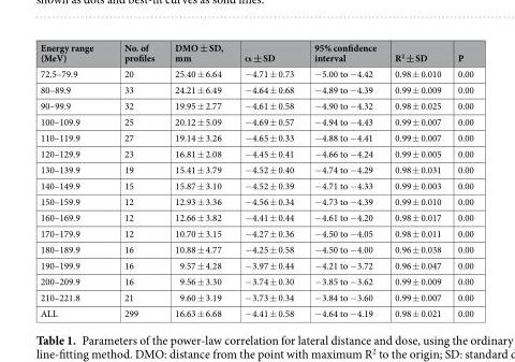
<table><thead><tr><td>Energy range (MeV)</td><td>No. of profiles</td><td>DMO ± SD, mm</td><td>α ± SD</td><td>95% confidence interval</td><td>R<sup>2</sup> ± SD</td><td>P</td></tr></thead><tbody><tr><td>72.5–79.9</td><td>20</td><td>25.40 ± 6.64</td><td>−4.71 ± 0.73</td><td>−5.00 to −4.42</td><td>0.98 ± 0.010</td><td>0.00</td></tr><tr><td>80–89.9</td><td>33</td><td>24.21 ± 6.49</td><td>−4.64 ± 0.68</td><td>−4.89 to −4.39</td><td>0.99 ± 0.009</td><td>0.00</td></tr><tr><td>90–99.9</td><td>32</td><td>19.95 ± 2.77</td><td>−4.61 ± 0.58</td><td>−4.90 to −4.32</td><td>0.98 ± 0.025</td><td>0.00</td></tr><tr><td>100–109.9</td><td>25</td><td>20.12 ± 5.09</td><td>−4.69 ± 0.57</td><td>−4.94 to −4.43</td><td>0.99 ± 0.007</td><td>0.00</td></tr><tr><td>110–119.9</td><td>27</td><td>19.14 ± 3.26</td><td>−4.65 ± 0.33</td><td>−4.88 to −4.41</td><td>0.99 ± 0.007</td><td>0.00</td></tr><tr><td>120–129.9</td><td>23</td><td>16.81 ± 2.08</td><td>−4.45 ± 0.41</td><td>−4.66 to −4.24</td><td>0.99 ± 0.005</td><td>0.00</td></tr><tr><td>130–139.9</td><td>19</td><td>15.41 ± 3.79</td><td>−4.52 ± 0.40</td><td>−4.74 to −4.29</td><td>0.98 ± 0.031</td><td>0.00</td></tr><tr><td>140–149.9</td><td>15</td><td>15.87 ± 3.10</td><td>−4.52 ± 0.39</td><td>−4.71 to −4.33</td><td>0.99 ± 0.003</td><td>0.00</td></tr><tr><td>150–159.9</td><td>12</td><td>12.93 ± 3.36</td><td>−4.56 ± 0.34</td><td>−4.73 to −4.39</td><td>0.99 ± 0.010</td><td>0.00</td></tr><tr><td>160–169.9</td><td>12</td><td>12.66 ± 3.82</td><td>−4.41 ± 0.44</td><td>−4.61 to −4.20</td><td>0.98 ± 0.017</td><td>0.00</td></tr><tr><td>170–179.9</td><td>12</td><td>10.70 ± 3.15</td><td>−4.27 ± 0.36</td><td>−4.50 to −4.05</td><td>0.98 ± 0.011</td><td>0.00</td></tr><tr><td>180–189.9</td><td>16</td><td>10.88 ± 4.77</td><td>−4.25 ± 0.58</td><td>−4.50 to −4.00</td><td>0.96 ± 0.038</td><td>0.00</td></tr><tr><td>190–199.9</td><td>16</td><td>9.57 ± 4.28</td><td>−3.97 ± 0.44</td><td>−4.21 to −3.72</td><td>0.96 ± 0.047</td><td>0.00</td></tr><tr><td>200–209.9</td><td>16</td><td>9.56 ± 3.30</td><td>−3.74 ± 0.30</td><td>−3.85 to −3.62</td><td>0.99 ± 0.009</td><td>0.00</td></tr><tr><td>210–221.8</td><td>21</td><td>9.60 ± 3.19</td><td>−3.73 ± 0.34</td><td>−3.84 to −3.60</td><td>0.99 ± 0.007</td><td>0.00</td></tr><tr><td>ALL</td><td>299</td><td>16.63 ± 6.68</td><td>−4.41 ± 0.58</td><td>−4.64 to −4.19</td><td>0.98 ± 0.021</td><td>0.00</td></tr></tbody></table>